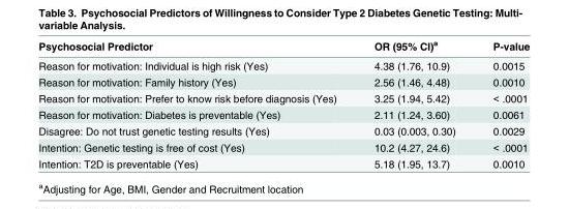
<table><thead><tr><td>Psychosocial Predictor</td><td>OR (95% CI)<sup>a</sup></td><td>P-value</td></tr></thead><tbody><tr><td>Reason for motivation: Individual is high risk (Yes)</td><td>4.38 (1.76, 10.9)</td><td>0.0015</td></tr><tr><td>Reason for motivation: Family history (Yes)</td><td>2.56 (1.46, 4.48)</td><td>0.0010</td></tr><tr><td>Reason for motivation: Prefer to know risk before diagnosis (Yes)</td><td>3.25 (1.94, 5.42)</td><td>&lt; .0001</td></tr><tr><td>Reason for motivation: Diabetes is preventable (Yes)</td><td>2.11 (1.24, 3.60)</td><td>0.0061</td></tr><tr><td>Disagree: Do not trust genetic testing results (Yes)</td><td>0.03 (0.003, 0.30)</td><td>0.0029</td></tr><tr><td>Intention: Genetic testing is free of cost (Yes)</td><td>10.2 (4.27, 24.6)</td><td>&lt; .0001</td></tr><tr><td>Intention: T2D is preventable (Yes)</td><td>5.18 (1.95, 13.7)</td><td>0.0010</td></tr></tbody></table>